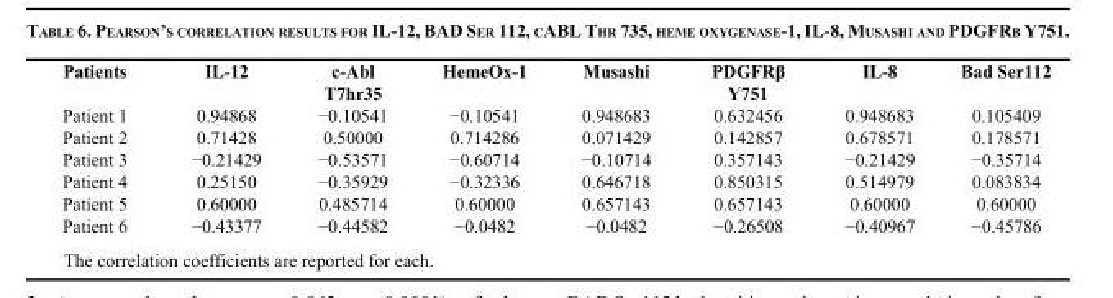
<table><thead><tr><td>Patients</td><td>IL-12</td><td>c-Abl T7hr35</td><td>HemeOx-1</td><td>Musashi</td><td>PDGFRβ Y751</td><td>IL-8</td><td>Bad Ser112</td></tr></thead><tbody><tr><td>Patient 1</td><td>0.94868</td><td>−0.10541</td><td>−0.10541</td><td>0.948683</td><td>0.632456</td><td>0.948683</td><td>0.105409</td></tr><tr><td>Patient 2</td><td>0.71428</td><td>0.50000</td><td>0.714286</td><td>0.071429</td><td>0.142857</td><td>0.678571</td><td>0.178571</td></tr><tr><td>Patient 3</td><td>−0.21429</td><td>−0.53571</td><td>−0.60714</td><td>−0.10714</td><td>0.357143</td><td>−0.21429</td><td>−0.35714</td></tr><tr><td>Patient 4</td><td>0.25150</td><td>−0.35929</td><td>−0.32336</td><td>0.646718</td><td>0.850315</td><td>0.514979</td><td>0.083834</td></tr><tr><td>Patient 5</td><td>0.60000</td><td>0.485714</td><td>0.60000</td><td>0.657143</td><td>0.657143</td><td>0.60000</td><td>0.60000</td></tr><tr><td>Patient 6</td><td>−0.43377</td><td>−0.44582</td><td>−0.0482</td><td>−0.0482</td><td>−0.26508</td><td>−0.40967</td><td>−0.45786</td></tr></tbody></table>